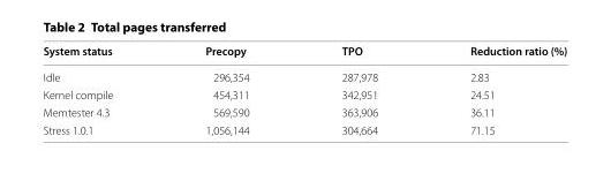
<table><thead><tr><td>System status</td><td>Precopy</td><td>TPO</td><td>Reduction ratio (%)</td></tr></thead><tbody><tr><td>Idle</td><td>296,354</td><td>287,978</td><td>2.83</td></tr><tr><td>Kernel compile</td><td>454,311</td><td>342,951</td><td>24.51</td></tr><tr><td>Memtester 4.3</td><td>569,590</td><td>363,906</td><td>36.11</td></tr><tr><td>Stress 1.0.1</td><td>1,056,144</td><td>304,664</td><td>71.15</td></tr></tbody></table>